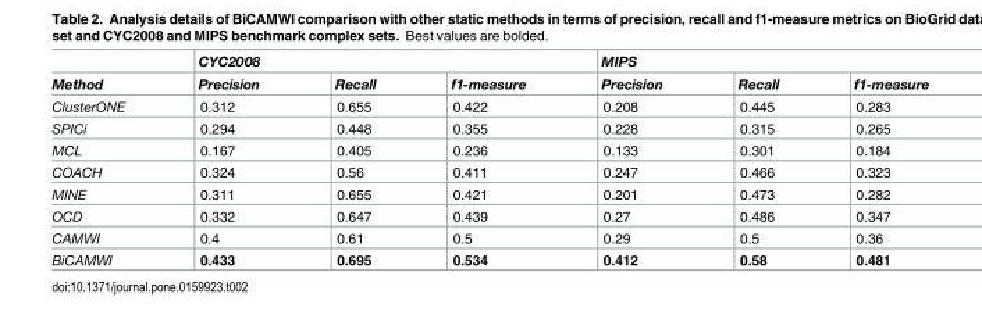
<table><thead><tr><td rowspan="2">Method</td><td colspan="3">CYC2008</td><td colspan="3">MIPS</td></tr><tr><td>Precision</td><td>Recall</td><td>f1-measure</td><td>Precision</td><td>Recall</td><td>f1-measure</td></tr></thead><tbody><tr><td>ClusterONE</td><td>0.312</td><td>0.655</td><td>0.422</td><td>0.208</td><td>0.445</td><td>0.283</td></tr><tr><td>SPICi</td><td>0.294</td><td>0.448</td><td>0.355</td><td>0.228</td><td>0.315</td><td>0.265</td></tr><tr><td>MCL</td><td>0.167</td><td>0.405</td><td>0.236</td><td>0.133</td><td>0.301</td><td>0.184</td></tr><tr><td>COACH</td><td>0.324</td><td>0.56</td><td>0.411</td><td>0.247</td><td>0.466</td><td>0.323</td></tr><tr><td>MINE</td><td>0.311</td><td>0.655</td><td>0.421</td><td>0.201</td><td>0.473</td><td>0.282</td></tr><tr><td>OCD</td><td>0.332</td><td>0.647</td><td>0.439</td><td>0.27</td><td>0.486</td><td>0.347</td></tr><tr><td>CAMWI</td><td>0.4</td><td>0.61</td><td>0.5</td><td>0.29</td><td>0.5</td><td>0.36</td></tr><tr><td>BiCAMWI</td><td>0.433</td><td>0.695</td><td>0.534</td><td>0.412</td><td>0.58</td><td>0.481</td></tr></tbody></table>